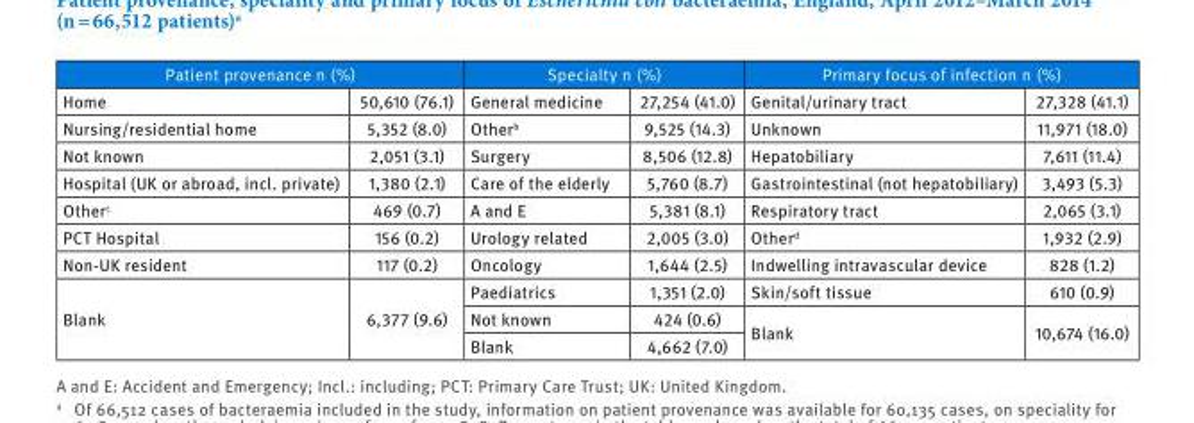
<table><thead><tr><td colspan="2">Patient provenance n (%)</td><td colspan="2">Specialty n (%)</td><td colspan="2">Primary focus of infection n (%)</td></tr><tr><td>Home</td><td>50,610 (76.1)</td><td>General medicine</td><td>27,254 (41.0)</td><td>Genital/urinary tract</td><td>27,328 (41.1)</td></tr></thead><tbody><tr><td>Nursing/residential home</td><td>5,352 (8.0)</td><td>Other<sup>b</sup></td><td>9,525 (14.3)</td><td>Unknown</td><td>11,971 (18.0)</td></tr><tr><td>Not known</td><td>2,051 (3.1)</td><td>Surgery</td><td>8,506 (12.8)</td><td>Hepatobiliary</td><td>7,611 (11.4)</td></tr><tr><td>Hospital (UK or abroad, incl. private)</td><td>1,380 (2.1)</td><td>Care of the elderly</td><td>5,760 (8.7)</td><td>Gastrointestinal (not hepatobiliary)</td><td>3,493 (5.3)</td></tr><tr><td>Other<sup>c</sup></td><td>469 (0.7)</td><td>A and E</td><td>5,381 (8.1)</td><td>Respiratory tract</td><td>2,065 (3.1)</td></tr><tr><td>PCT Hospital</td><td>156 (0.2)</td><td>Urology related</td><td>2,005 (3.0)</td><td>Other<sup>d</sup></td><td>1,932 (2.9)</td></tr><tr><td>Non-UK resident</td><td>117 (0.2)</td><td>Oncology</td><td>1,644 (2.5)</td><td>Indwelling intravascular device</td><td>828 (1.2)</td></tr><tr><td rowspan="3">Blank</td><td rowspan="3">6,377 (9.6)</td><td>Paediatrics</td><td>1,351 (2.0)</td><td>Skin/soft tissue</td><td>610 (0.9)</td></tr><tr><td>Not known</td><td>424 (0.6)</td><td rowspan="2">Blank</td><td rowspan="2">10,674 (16.0)</td></tr><tr><td>Blank</td><td>4,662 (7.0)</td></tr></tbody></table>